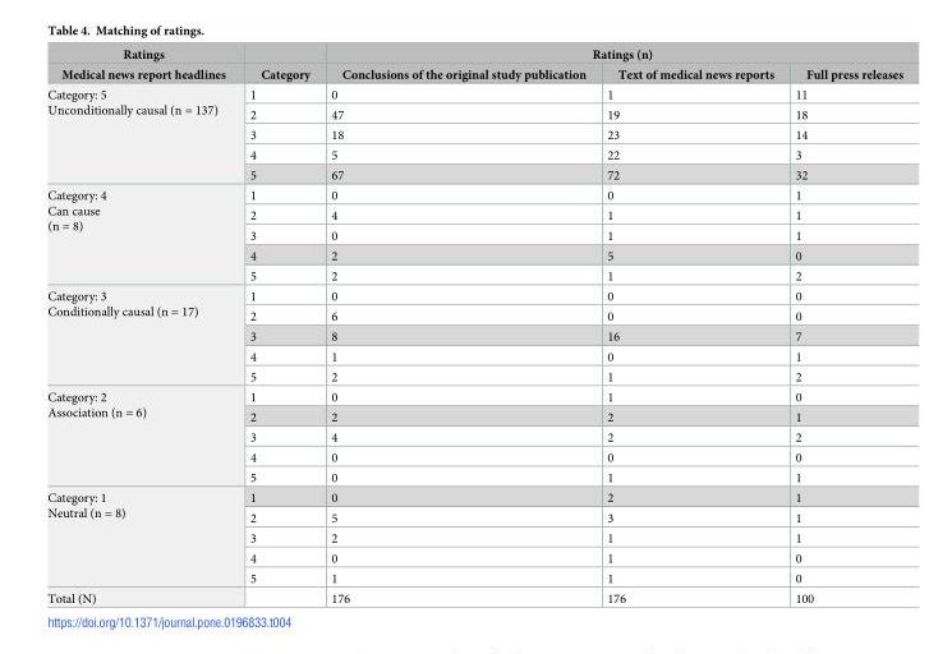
<table><thead><tr><td rowspan="2">Ratings Medical news report headlines</td><td rowspan="2">Category</td><td colspan="3">Ratings (n)</td></tr><tr><td>Conclusions of the original study publication</td><td>Text of medical news reports</td><td>Full press releases</td></tr></thead><tbody><tr><td rowspan="5">Category: 5 Unconditionally causal (n = 137)</td><td>1</td><td>0</td><td>1</td><td>11</td></tr><tr><td>2</td><td>47</td><td>19</td><td>18</td></tr><tr><td>3</td><td>18</td><td>23</td><td>14</td></tr><tr><td>4</td><td>5</td><td>22</td><td>3</td></tr><tr><td>5</td><td>67</td><td>72</td><td>32</td></tr><tr><td rowspan="5">Category: 4 Can cause (n = 8)</td><td>1</td><td>0</td><td>0</td><td>1</td></tr><tr><td>2</td><td>4</td><td>1</td><td>1</td></tr><tr><td>3</td><td>0</td><td>1</td><td>1</td></tr><tr><td>4</td><td>2</td><td>5</td><td>0</td></tr><tr><td>5</td><td>2</td><td>1</td><td>2</td></tr><tr><td rowspan="5">Category: 3 Conditionally causal (n = 17)</td><td>1</td><td>0</td><td>0</td><td>0</td></tr><tr><td>2</td><td>6</td><td>0</td><td>0</td></tr><tr><td>3</td><td>8</td><td>16</td><td>7</td></tr><tr><td>4</td><td>1</td><td>0</td><td>1</td></tr><tr><td>5</td><td>2</td><td>1</td><td>2</td></tr><tr><td rowspan="5">Category: 2 Association (n = 6)</td><td>1</td><td>0</td><td>1</td><td>0</td></tr><tr><td>2</td><td>2</td><td>2</td><td>1</td></tr><tr><td>3</td><td>4</td><td>2</td><td>2</td></tr><tr><td>4</td><td>0</td><td>0</td><td>0</td></tr><tr><td>5</td><td>0</td><td>1</td><td>1</td></tr><tr><td rowspan="5">Category: 1 Neutral (n = 8)</td><td>1</td><td>0</td><td>2</td><td>1</td></tr><tr><td>2</td><td>5</td><td>3</td><td>1</td></tr><tr><td>3</td><td>2</td><td>1</td><td>1</td></tr><tr><td>4</td><td>0</td><td>1</td><td>0</td></tr><tr><td>5</td><td>1</td><td>1</td><td>0</td></tr><tr><td>Total (N)</td><td></td><td>176</td><td>176</td><td>100</td></tr></tbody></table>